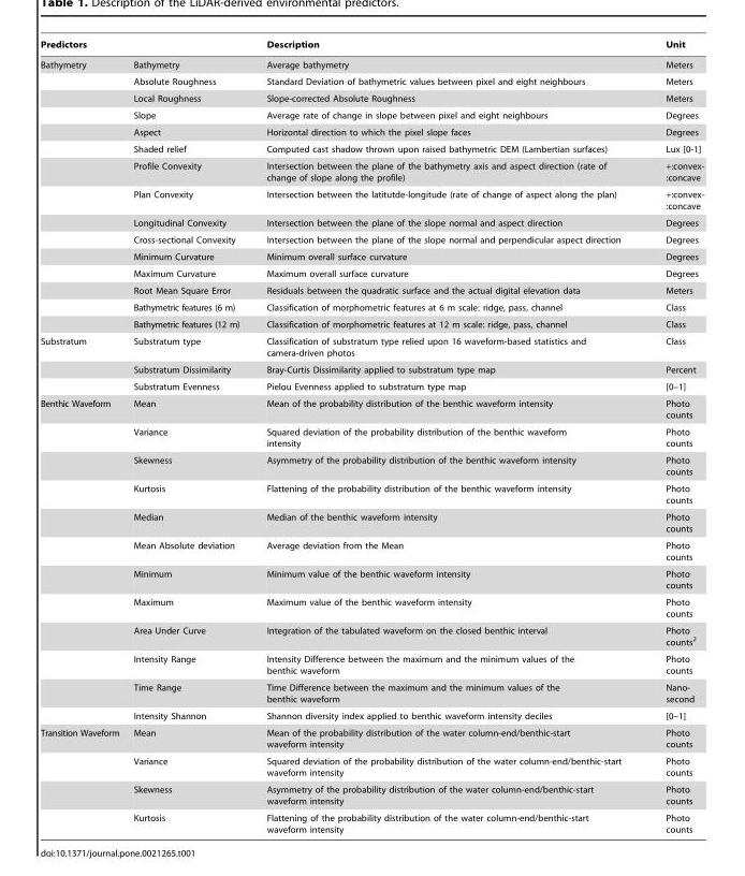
<table><thead><tr><td colspan="2">Predictors</td><td rowspan="2">Description Average bathymetry</td><td rowspan="2">Unit Meters</td></tr><tr><td>Bathymetry</td><td>Bathymetry</td></tr></thead><tbody><tr><td></td><td>Absolute Roughness</td><td>Standard Deviation of bathymetric values between pixel and eight neighbours</td><td>Meters</td></tr><tr><td></td><td>Local Roughness</td><td>Slope-corrected Absolute Roughness</td><td>Meters</td></tr><tr><td></td><td>Slope</td><td>Average rate of change in slope between pixel and eight neighbours</td><td>Degrees</td></tr><tr><td></td><td>Aspect</td><td>Horizontal direction to which the pixel slope faces</td><td>Degrees</td></tr><tr><td></td><td>Shaded relief</td><td>Computed cast shadow thrown upon raised bathymetric DEM (Lambertian surfaces)</td><td>Lux [0-1]</td></tr><tr><td></td><td>Profile Convexity</td><td>Intersection between the plane of the bathymetry axis and aspect direction (rate of change of slope along the profile)</td><td>+:convex- :concave</td></tr><tr><td></td><td>Plan Convexity</td><td>Intersection between the latitutde-longitude (rate of change of aspect along the plan)</td><td>+:convex- :concave</td></tr><tr><td></td><td>Longitudinal Convexity</td><td>Intersection between the plane of the slope normal and aspect direction</td><td>Degrees</td></tr><tr><td></td><td>Cross-sectional Convexity</td><td>Intersection between the plane of the slope normal and perpendicular aspect direction</td><td>Degrees</td></tr><tr><td></td><td>Minimum Curvature</td><td>Minimum overall surface curvature</td><td>Degrees</td></tr><tr><td></td><td>Maximum Curvature</td><td>Maximum overall surface curvature</td><td>Degrees</td></tr><tr><td></td><td>Root Mean Square Error</td><td>Residuals between the quadratic surface and the actual digital elevation data</td><td>Meters</td></tr><tr><td></td><td>Bathymetric features (6 m)</td><td>Classification of morphometric features at 6 m scale: ridge, pass, channel</td><td>Class</td></tr><tr><td></td><td>Bathymetric features (12 m)</td><td>Classification of morphometric features at 12 m scale: ridge, pass, channel</td><td>Class</td></tr><tr><td rowspan="3">Substratum</td><td>Substratum type</td><td>Classification of substratum type relied upon 16 waveform-based statistics and camera-driven photos</td><td>Class</td></tr><tr><td>Substratum Dissimilarity</td><td>Bray-Curtis Dissimilarity applied to substratum type map</td><td>Percent</td></tr><tr><td>Substratum Evenness</td><td>Pielou Evenness applied to substratum type map</td><td>[0–1]</td></tr><tr><td rowspan="12">Benthic Waveform</td><td>Mean</td><td>Mean of the probability distribution of the benthic waveform intensity</td><td>Photo counts</td></tr><tr><td>Variance</td><td>Squared deviation of the probability distribution of the benthic waveform intensity</td><td>Photo counts</td></tr><tr><td>Skewness</td><td>Asymmetry of the probability distribution of the benthic waveform intensity</td><td>Photo counts</td></tr><tr><td>Kurtosis</td><td>Flattening of the probability distribution of the benthic waveform intensity</td><td>Photo counts</td></tr><tr><td>Median</td><td>Median of the benthic waveform intensity</td><td>Photo counts</td></tr><tr><td>Mean Absolute deviation</td><td>Average deviation from the Mean</td><td>Photo counts</td></tr><tr><td>Minimum</td><td>Minimum value of the benthic waveform intensity</td><td>Photo counts</td></tr><tr><td>Maximum</td><td>Maximum value of the benthic waveform intensity</td><td>Photo counts</td></tr><tr><td>Area Under Curve</td><td>Integration of the tabulated waveform on the closed benthic interval</td><td>Photo counts<sup>2</sup></td></tr><tr><td>Intensity Range</td><td>Intensity Difference between the maximum and the minimum values of the benthic waveform</td><td>Photo counts</td></tr><tr><td>Time Range</td><td>Time Difference between the maximum and the minimum values of the benthic waveform</td><td>Nano- second</td></tr><tr><td>Intensity Shannon</td><td>Shannon diversity index applied to benthic waveform intensity deciles</td><td>[0–1]</td></tr><tr><td rowspan="4">Transition Waveform</td><td>Mean</td><td>Mean of the probability distribution of the water column-end/benthic-start waveform intensity</td><td>Photo counts</td></tr><tr><td>Variance</td><td>Squared deviation of the probability distribution of the water column-end/benthic-start waveform intensity</td><td>Photo counts</td></tr><tr><td>Skewness</td><td>Asymmetry of the probability distribution of the water column-end/benthic-start waveform intensity</td><td>Photo counts</td></tr><tr><td>Kurtosis</td><td>Flattening of the probability distribution of the water column-end/benthic-start waveform intensity</td><td>Photo counts</td></tr></tbody></table>